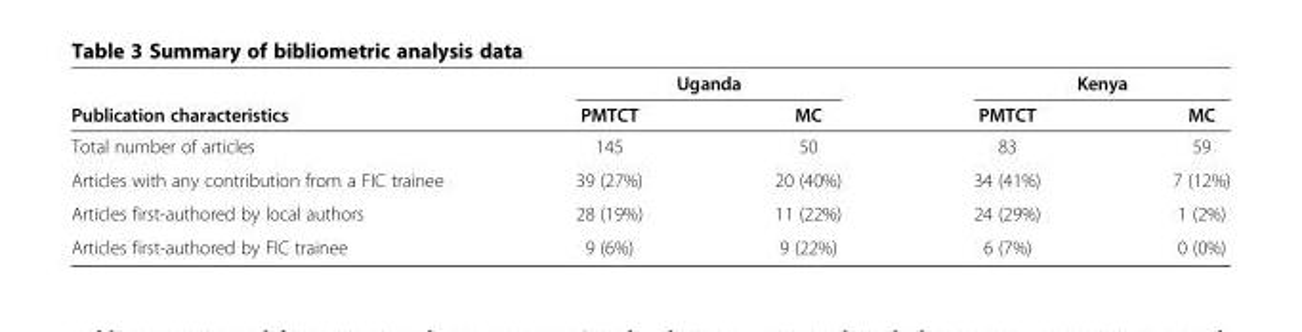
<table><thead><tr><td rowspan="2">Publication characteristics</td><td colspan="2">Uganda</td><td colspan="2">Kenya</td></tr><tr><td>PMTCT</td><td>MC</td><td>PMTCT</td><td>MC</td></tr></thead><tbody><tr><td>Total number of articles</td><td>145</td><td>50</td><td>83</td><td>59</td></tr><tr><td>Articles with any contribution from a FIC trainee</td><td>39 (27%)</td><td>20 (40%)</td><td>34 (41%)</td><td>7 (12%)</td></tr><tr><td>Articles first-authored by local authors</td><td>28 (19%)</td><td>11 (22%)</td><td>24 (29%)</td><td>1 (2%)</td></tr><tr><td>Articles first-authored by FIC trainee</td><td>9 (6%)</td><td>9 (22%)</td><td>6 (7%)</td><td>0 (0%)</td></tr></tbody></table>